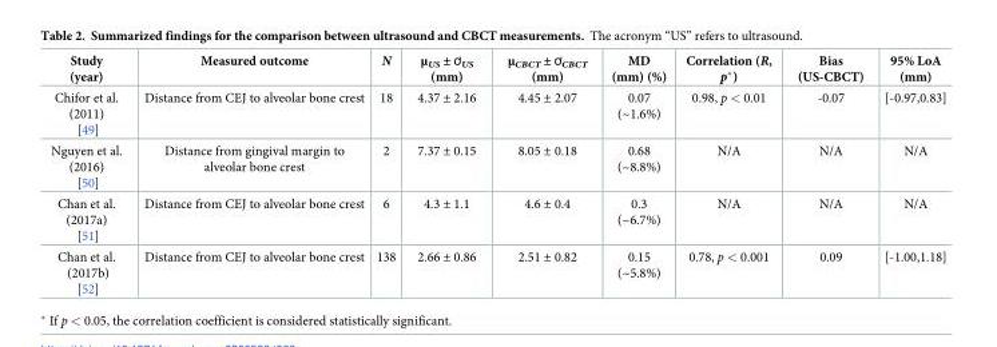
<table><thead><tr><td>Study (year)</td><td>Measured outcome</td><td>N</td><td>μ<sub>US</sub> ± ơ<sub>US</sub> (mm)</td><td>μ<sub>CBCT</sub> ± ơ<sub>CBCT</sub> (mm)</td><td>MD (mm) (%)</td><td>Correlation (R, p*)</td><td>Bias (US-CBCT)</td><td>95% LoA (mm)</td></tr></thead><tbody><tr><td>Chifor et al. (2011) [49]</td><td>Distance from CEJ to alveolar bone crest</td><td>18</td><td>4.37 ± 2.16</td><td>4.45 ± 2.07</td><td>0.07 (~1.6%)</td><td>0.98, p &lt; 0.01</td><td>-0.07</td><td>[-0.97,0.83]</td></tr><tr><td>Nguyen et al. (2016) [50]</td><td>Distance from gingival margin to alveolar bone crest</td><td>2</td><td>7.37 ± 0.15</td><td>8.05 ± 0.18</td><td>0.68 (~8.8%)</td><td>N/A</td><td>N/A</td><td>N/A</td></tr><tr><td>Chan et al. (2017a) [51]</td><td>Distance from CEJ to alveolar bone crest</td><td>6</td><td>4.3 ± 1.1</td><td>4.6 ± 0.4</td><td>0.3 (~6.7%)</td><td>N/A</td><td>N/A</td><td>N/A</td></tr><tr><td>Chan et al. (2017b) [52]</td><td>Distance from CEJ to alveolar bone crest</td><td>138</td><td>2.66 ± 0.86</td><td>2.51 ± 0.82</td><td>0.15 (~5.8%)</td><td>0.78, p &lt; 0.001</td><td>0.09</td><td>[-1.00,1.18]</td></tr></tbody></table>